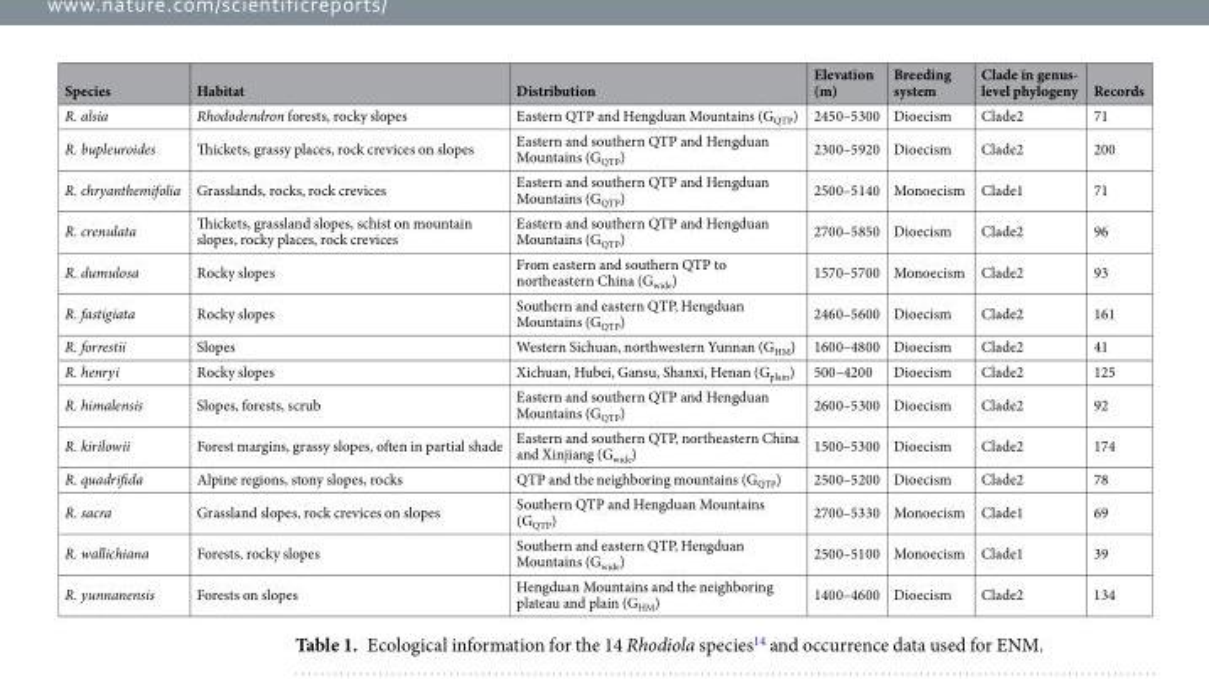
<table><thead><tr><td>Species</td><td>Habitat</td><td>Distribution</td><td>Elevation (m)</td><td>Breeding system</td><td>Clade in genus- level phylogeny</td><td>Records</td></tr></thead><tbody><tr><td>R. alsia</td><td>Rhododendron forests, rocky slopes</td><td>Eastern QTP and Hengduan Mountains (G<sub>QTP</sub>)</td><td>2450–5300</td><td>Dioecism</td><td>Clade2</td><td>71</td></tr><tr><td>R. bupleuroides</td><td>Thickets, grassy places, rock crevices on slopes</td><td>Eastern and southern QTP and Hengduan Mountains (G<sub>QTP</sub>)</td><td>2300–5920</td><td>Dioecism</td><td>Clade2</td><td>200</td></tr><tr><td>R. chryanthemifolia</td><td>Grasslands, rocks, rock crevices</td><td>Eastern and southern QTP and Hengduan Mountains (G<sub>QTP</sub>)</td><td>2500–5140</td><td>Monoecism</td><td>Clade1</td><td>71</td></tr><tr><td>R. crenulata</td><td>Thickets, grassland slopes, schist on mountain slopes, rocky places, rock crevices</td><td>Eastern and southern QTP and Hengduan Mountains (G<sub>QTP</sub>)</td><td>2700–5850</td><td>Dioecism</td><td>Clade2</td><td>96</td></tr><tr><td>R. dumulosa</td><td>Rocky slopes</td><td>From eastern and southern QTP to northeastern China (G<sub>wide</sub>)</td><td>1570–5700</td><td>Monoecism</td><td>Clade2</td><td>93</td></tr><tr><td>R. fastigiata</td><td>Rocky slopes</td><td>Southern and eastern QTP, Hengduan Mountains (G<sub>QTP</sub>)</td><td>2460–5600</td><td>Dioecism</td><td>Clade2</td><td>161</td></tr><tr><td>R. forrestii</td><td>Slopes</td><td>Western Sichuan, northwestern Yunnan (G<sub>HM</sub>)</td><td>1600–4800</td><td>Dioecism</td><td>Clade2</td><td>41</td></tr><tr><td>R. henryi</td><td>Rocky slopes</td><td>Xichuan, Hubei, Gansu, Shanxi, Henan (G<sub>plain</sub>)</td><td>500–4200</td><td>Dioecism</td><td>Clade2</td><td>125</td></tr><tr><td>R. himalensis</td><td>Slopes, forests, scrub</td><td>Eastern and southern QTP and Hengduan Mountains (G<sub>QTP</sub>)</td><td>2600–5300</td><td>Dioecism</td><td>Clade2</td><td>92</td></tr><tr><td>R. kirilowii</td><td>Forest margins, grassy slopes, often in partial shade</td><td>Eastern and southern QTP, northeastern China and Xinjiang (G<sub>wide</sub>)</td><td>1500–5300</td><td>Dioecism</td><td>Clade2</td><td>174</td></tr><tr><td>R. quadrifida</td><td>Alpine regions, stony slopes, rocks</td><td>QTP and the neighboring mountains (G<sub>QTP</sub>)</td><td>2500–5200</td><td>Dioecism</td><td>Clade2</td><td>78</td></tr><tr><td>R. sacra</td><td>Grassland slopes, rock crevices on slopes</td><td>Southern QTP and Hengduan Mountains (G<sub>QTP</sub>)</td><td>2700–5330</td><td>Monoecism</td><td>Clade1</td><td>69</td></tr><tr><td>R. wallichiana</td><td>Forests, rocky slopes</td><td>Southern and eastern QTP, Hengduan Mountains (G<sub>wide</sub>)</td><td>2500–5100</td><td>Monoecism</td><td>Clade1</td><td>39</td></tr><tr><td>R. yunnanensis</td><td>Forests on slopes</td><td>Hengduan Mountains and the neighboring plateau and plain (G<sub>HM</sub>)</td><td>1400–4600</td><td>Dioecism</td><td>Clade2</td><td>134</td></tr></tbody></table>